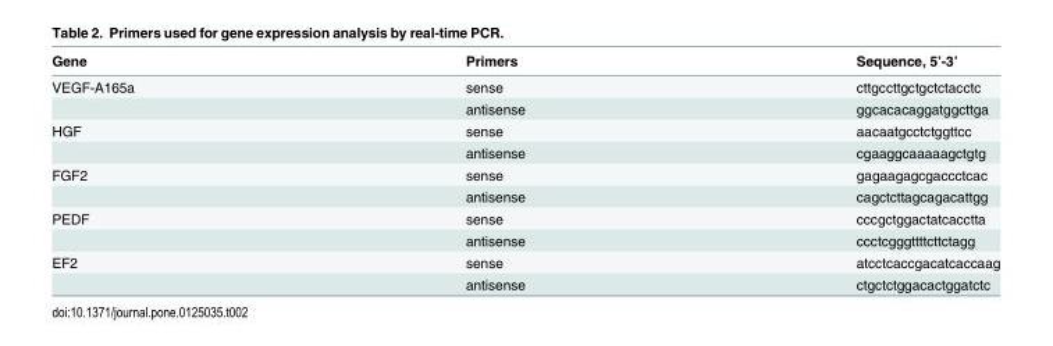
<table><thead><tr><td>Gene</td><td>Primers</td><td>Sequence, 5’-3’</td></tr></thead><tbody><tr><td rowspan="2">VEGF-A165a</td><td>sense</td><td>cttgccttgctgctctacctc</td></tr><tr><td>antisense</td><td>ggcacacaggatggcttga</td></tr><tr><td rowspan="2">HGF</td><td>sense</td><td>aacaatgcctctggttcc</td></tr><tr><td>antisense</td><td>cgaaggcaaaaagctgtg</td></tr><tr><td rowspan="2">FGF2</td><td>sense</td><td>gagaagagcgaccctcac</td></tr><tr><td>antisense</td><td>cagctcttagcagacattgg</td></tr><tr><td rowspan="2">PEDF</td><td>sense</td><td>cccgctggactatcacctta</td></tr><tr><td>antisense</td><td>ccctcgggttttcttctagg</td></tr><tr><td rowspan="2">EF2</td><td>sense</td><td>atcctcaccgacatcaccaag</td></tr><tr><td>antisense</td><td>ctgctctggacactggatctc</td></tr></tbody></table>